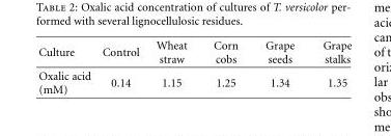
<table><thead><tr><td>Culture</td><td>Control</td><td>Wheat straw</td><td>Corn cobs</td><td>Grape seeds</td><td>Grape stalks</td></tr></thead><tbody><tr><td>Oxalic acid (mM)</td><td>0.14</td><td>1.15</td><td>1.25</td><td>1.34</td><td>1.35</td></tr></tbody></table>